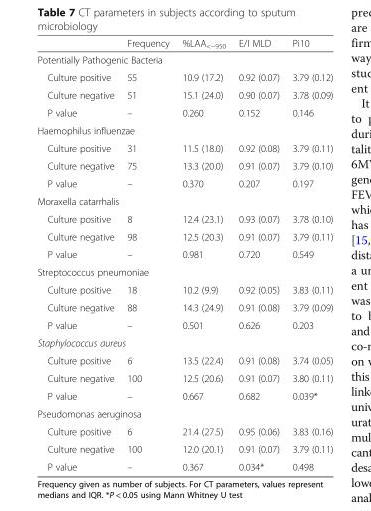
<table><thead><tr><td></td><td>Frequency</td><td>%LAA<sub>&lt;−950</sub></td><td>E/I MLD</td><td>Pi10</td></tr></thead><tbody><tr><td colspan="5">Potentially Pathogenic Bacteria</td></tr><tr><td>Culture positive</td><td>55</td><td>10.9 (17.2)</td><td>0.92 (0.07)</td><td>3.79 (0.12)</td></tr><tr><td>Culture negative</td><td>51</td><td>15.1 (24.0)</td><td>0.90 (0.07)</td><td>3.78 (0.09)</td></tr><tr><td>P value</td><td>–</td><td>0.260</td><td>0.152</td><td>0.146</td></tr><tr><td colspan="5">Haemophilus influenzae</td></tr><tr><td>Culture positive</td><td>31</td><td>11.5 (18.0)</td><td>0.92 (0.08)</td><td>3.79 (0.11)</td></tr><tr><td>Culture negative</td><td>75</td><td>13.3 (20.0)</td><td>0.91 (0.07)</td><td>3.79 (0.10)</td></tr><tr><td>P value</td><td>–</td><td>0.370</td><td>0.207</td><td>0.197</td></tr><tr><td colspan="5">Moraxella catarrhalis</td></tr><tr><td>Culture positive</td><td>8</td><td>12.4 (23.1)</td><td>0.93 (0.07)</td><td>3.78 (0.10)</td></tr><tr><td>Culture negative</td><td>98</td><td>12.5 (20.3)</td><td>0.91 (0.07)</td><td>3.79 (0.11)</td></tr><tr><td>P value</td><td>–</td><td>0.981</td><td>0.720</td><td>0.549</td></tr><tr><td colspan="5">Streptococcus pneumoniae</td></tr><tr><td>Culture positive</td><td>18</td><td>10.2 (9.9)</td><td>0.92 (0.05)</td><td>3.83 (0.11)</td></tr><tr><td>Culture negative</td><td>88</td><td>14.3 (24.9)</td><td>0.91 (0.08)</td><td>3.79 (0.09)</td></tr><tr><td>P value</td><td>–</td><td>0.501</td><td>0.626</td><td>0.203</td></tr><tr><td colspan="5">Staphylococcus aureus</td></tr><tr><td>Culture positive</td><td>6</td><td>13.5 (22.4)</td><td>0.91 (0.08)</td><td>3.74 (0.05)</td></tr><tr><td>Culture negative</td><td>100</td><td>12.5 (20.6)</td><td>0.91 (0.07)</td><td>3.80 (0.11)</td></tr><tr><td>P value</td><td>–</td><td>0.667</td><td>0.682</td><td>0.039*</td></tr><tr><td colspan="5">Pseudomonas aeruginosa</td></tr><tr><td>Culture positive</td><td>6</td><td>21.4 (27.5)</td><td>0.95 (0.06)</td><td>3.83 (0.16)</td></tr><tr><td>Culture negative</td><td>100</td><td>12.0 (20.1)</td><td>0.91 (0.07)</td><td>3.79 (0.11)</td></tr><tr><td>P value</td><td>–</td><td>0.367</td><td>0.034*</td><td>0.498</td></tr></tbody></table>